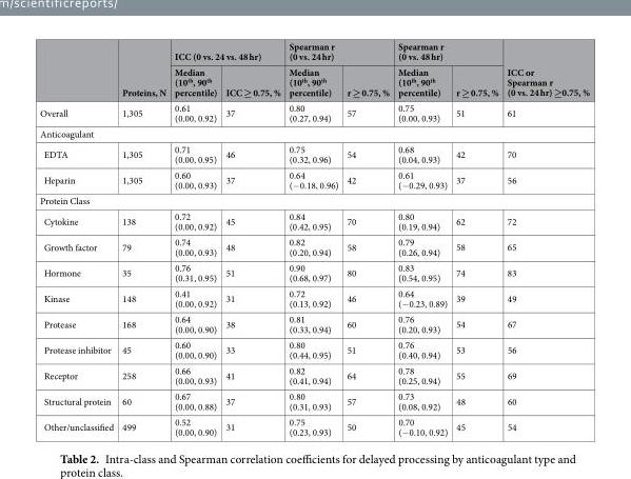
<table><thead><tr><td rowspan="2"></td><td rowspan="2">Proteins, N</td><td colspan="2">ICC (0 vs. 24 vs. 48 hr)</td><td colspan="2">Spearman r (0 vs. 24 hr)</td><td colspan="2">Spearman r (0 vs. 48 hr)</td><td rowspan="2">ICC or Spearman r (0 vs. 24 hr) ≥0.75, %</td></tr><tr><td>Median (10<sup>th</sup>, 90<sup>th</sup> percentile)</td><td>ICC ≥ 0.75, %</td><td>Median (10<sup>th</sup>, 90<sup>th</sup> percentile)</td><td>r ≥ 0.75, %</td><td>Median (10<sup>th</sup>, 90<sup>th</sup> percentile)</td><td>r ≥ 0.75, %</td></tr></thead><tbody><tr><td>Overall</td><td>1,305</td><td>0.61 (0.00, 0.92)</td><td>37</td><td>0.80 (0.27, 0.94)</td><td>57</td><td>0.75 (0.00, 0.93)</td><td>51</td><td>61</td></tr><tr><td colspan="9">Anticoagulant</td></tr><tr><td>EDTA</td><td>1,305</td><td>0.71 (0.00, 0.95)</td><td>46</td><td>0.75 (0.32, 0.96)</td><td>54</td><td>0.68 (0.04, 0.93)</td><td>42</td><td>70</td></tr><tr><td>Heparin</td><td>1,305</td><td>0.60 (0.00, 0.93)</td><td>37</td><td>0.64 (−0.18, 0.96)</td><td>42</td><td>0.61 (−0.29, 0.93)</td><td>37</td><td>56</td></tr><tr><td colspan="9">Protein Class</td></tr><tr><td>Cytokine</td><td>138</td><td>0.72 (0.00, 0.92)</td><td>45</td><td>0.84 (0.42, 0.95)</td><td>70</td><td>0.80 (0.19, 0.94)</td><td>62</td><td>72</td></tr><tr><td>Growth factor</td><td>79</td><td>0.74 (0.00, 0.93)</td><td>48</td><td>0.82 (0.20, 0.94)</td><td>58</td><td>0.79 (0.26, 0.94)</td><td>58</td><td>65</td></tr><tr><td>Hormone</td><td>35</td><td>0.76 (0.31, 0.95)</td><td>51</td><td>0.90 (0.68, 0.97)</td><td>80</td><td>0.83 (0.54, 0.95)</td><td>74</td><td>83</td></tr><tr><td>Kinase</td><td>148</td><td>0.41 (0.00, 0.92)</td><td>31</td><td>0.72 (0.13, 0.92)</td><td>46</td><td>0.64 (−0.23, 0.89)</td><td>39</td><td>49</td></tr><tr><td>Protease</td><td>168</td><td>0.64 (0.00, 0.90)</td><td>38</td><td>0.81 (0.33, 0.94)</td><td>60</td><td>0.76 (0.20, 0.93)</td><td>54</td><td>67</td></tr><tr><td>Protease inhibitor</td><td>45</td><td>0.60 (0.00, 0.90)</td><td>33</td><td>0.80 (0.44, 0.95)</td><td>51</td><td>0.76 (0.40, 0.94)</td><td>53</td><td>56</td></tr><tr><td>Receptor</td><td>258</td><td>0.66 (0.00, 0.93)</td><td>41</td><td>0.82 (0.41, 0.94)</td><td>64</td><td>0.78 (0.25, 0.94)</td><td>55</td><td>69</td></tr><tr><td>Structural protein</td><td>60</td><td>0.67 (0.00, 0.88)</td><td>37</td><td>0.80 (0.31, 0.93)</td><td>57</td><td>0.73 (0.08, 0.92)</td><td>48</td><td>60</td></tr><tr><td>Other/unclassified</td><td>499</td><td>0.52 (0.00, 0.90)</td><td>31</td><td>0.75 (0.23, 0.93)</td><td>50</td><td>0.70 (−0.10, 0.92)</td><td>45</td><td>54</td></tr></tbody></table>